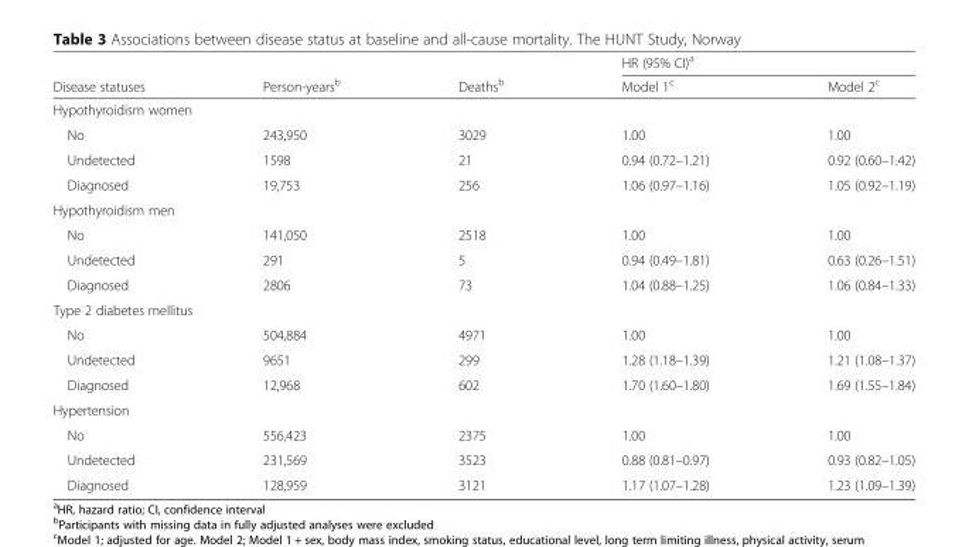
<table><thead><tr><td rowspan="2">Disease statuses</td><td rowspan="2">Person-years<sup>b</sup></td><td rowspan="2">Deaths<sup>b</sup></td><td colspan="2">HR (95% CI)<sup>a</sup></td></tr><tr><td>Model 1<sup>c</sup></td><td>Model 2<sup>c</sup></td></tr></thead><tbody><tr><td colspan="5">Hypothyroidism women</td></tr><tr><td>No</td><td>243,950</td><td>3029</td><td>1.00</td><td>1.00</td></tr><tr><td>Undetected</td><td>1598</td><td>21</td><td>0.94 (0.72–1.21)</td><td>0.92 (0.60–1.42)</td></tr><tr><td>Diagnosed</td><td>19,753</td><td>256</td><td>1.06 (0.97–1.16)</td><td>1.05 (0.92–1.19)</td></tr><tr><td colspan="5">Hypothyroidism men</td></tr><tr><td>No</td><td>141,050</td><td>2518</td><td>1.00</td><td>1.00</td></tr><tr><td>Undetected</td><td>291</td><td>5</td><td>0.94 (0.49–1.81)</td><td>0.63 (0.26–1.51)</td></tr><tr><td>Diagnosed</td><td>2806</td><td>73</td><td>1.04 (0.88–1.25)</td><td>1.06 (0.84–1.33)</td></tr><tr><td colspan="5">Type 2 diabetes mellitus</td></tr><tr><td>No</td><td>504,884</td><td>4971</td><td>1.00</td><td>1.00</td></tr><tr><td>Undetected</td><td>9651</td><td>299</td><td>1.28 (1.18–1.39)</td><td>1.21 (1.08–1.37)</td></tr><tr><td>Diagnosed</td><td>12,968</td><td>602</td><td>1.70 (1.60–1.80)</td><td>1.69 (1.55–1.84)</td></tr><tr><td colspan="5">Hypertension</td></tr><tr><td>No</td><td>556,423</td><td>2375</td><td>1.00</td><td>1.00</td></tr><tr><td>Undetected</td><td>231,569</td><td>3523</td><td>0.88 (0.81–0.97)</td><td>0.93 (0.82–1.05)</td></tr><tr><td>Diagnosed</td><td>128,959</td><td>3121</td><td>1.17 (1.07–1.28)</td><td>1.23 (1.09–1.39)</td></tr></tbody></table>